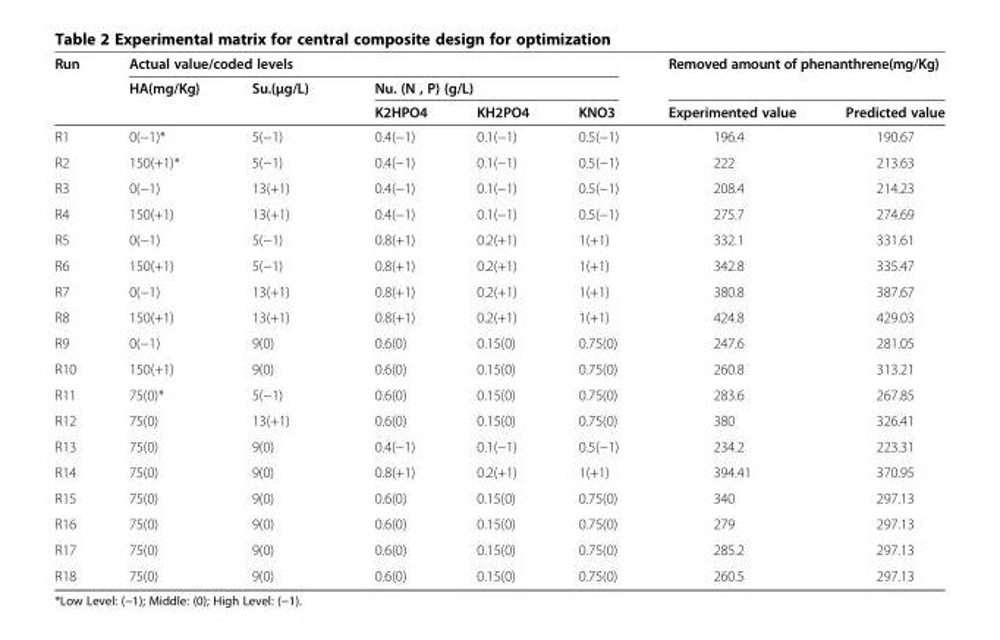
<table><thead><tr><td rowspan="3">Run</td><td colspan="5">Actual value/coded levels</td><td rowspan="2" colspan="2">Removed amount of phenanthrene(mg/Kg)</td></tr><tr><td rowspan="2">HA(mg/Kg)</td><td rowspan="2">Su.(μg/L)</td><td colspan="3">Nu. (N , P) (g/L)</td></tr><tr><td>K2HPO4</td><td>KH2PO4</td><td>KNO3</td><td>Experimented value</td><td>Predicted value</td></tr></thead><tbody><tr><td>R1</td><td>0(−1)*</td><td>5(−1)</td><td>0.4(−1)</td><td>0.1(−1)</td><td>0.5(−1)</td><td>196.4</td><td>190.67</td></tr><tr><td>R2</td><td>150(+1)*</td><td>5(−1)</td><td>0.4(−1)</td><td>0.1(−1)</td><td>0.5(−1)</td><td>222</td><td>213.63</td></tr><tr><td>R3</td><td>0(−1)</td><td>13(+1)</td><td>0.4(−1)</td><td>0.1(−1)</td><td>0.5(−1)</td><td>208.4</td><td>214.23</td></tr><tr><td>R4</td><td>150(+1)</td><td>13(+1)</td><td>0.4(−1)</td><td>0.1(−1)</td><td>0.5(−1)</td><td>275.7</td><td>274.69</td></tr><tr><td>R5</td><td>0(−1)</td><td>5(−1)</td><td>0.8(+1)</td><td>0.2(+1)</td><td>1(+1)</td><td>332.1</td><td>331.61</td></tr><tr><td>R6</td><td>150(+1)</td><td>5(−1)</td><td>0.8(+1)</td><td>0.2(+1)</td><td>1(+1)</td><td>342.8</td><td>335.47</td></tr><tr><td>R7</td><td>0(−1)</td><td>13(+1)</td><td>0.8(+1)</td><td>0.2(+1)</td><td>1(+1)</td><td>380.8</td><td>387.67</td></tr><tr><td>R8</td><td>150(+1)</td><td>13(+1)</td><td>0.8(+1)</td><td>0.2(+1)</td><td>1(+1)</td><td>424.8</td><td>429.03</td></tr><tr><td>R9</td><td>0(−1)</td><td>9(0)</td><td>0.6(0)</td><td>0.15(0)</td><td>0.75(0)</td><td>247.6</td><td>281.05</td></tr><tr><td>R10</td><td>150(+1)</td><td>9(0)</td><td>0.6(0)</td><td>0.15(0)</td><td>0.75(0)</td><td>260.8</td><td>313.21</td></tr><tr><td>R11</td><td>75(0)*</td><td>5(−1)</td><td>0.6(0)</td><td>0.15(0)</td><td>0.75(0)</td><td>283.6</td><td>267.85</td></tr><tr><td>R12</td><td>75(0)</td><td>13(+1)</td><td>0.6(0)</td><td>0.15(0)</td><td>0.75(0)</td><td>380</td><td>326.41</td></tr><tr><td>R13</td><td>75(0)</td><td>9(0)</td><td>0.4(−1)</td><td>0.1(−1)</td><td>0.5(−1)</td><td>234.2</td><td>223.31</td></tr><tr><td>R14</td><td>75(0)</td><td>9(0)</td><td>0.8(+1)</td><td>0.2(+1)</td><td>1(+1)</td><td>394.41</td><td>370.95</td></tr><tr><td>R15</td><td>75(0)</td><td>9(0)</td><td>0.6(0)</td><td>0.15(0)</td><td>0.75(0)</td><td>340</td><td>297.13</td></tr><tr><td>R16</td><td>75(0)</td><td>9(0)</td><td>0.6(0)</td><td>0.15(0)</td><td>0.75(0)</td><td>279</td><td>297.13</td></tr><tr><td>R17</td><td>75(0)</td><td>9(0)</td><td>0.6(0)</td><td>0.15(0)</td><td>0.75(0)</td><td>285.2</td><td>297.13</td></tr><tr><td>R18</td><td>75(0)</td><td>9(0)</td><td>0.6(0)</td><td>0.15(0)</td><td>0.75(0)</td><td>260.5</td><td>297.13</td></tr></tbody></table>